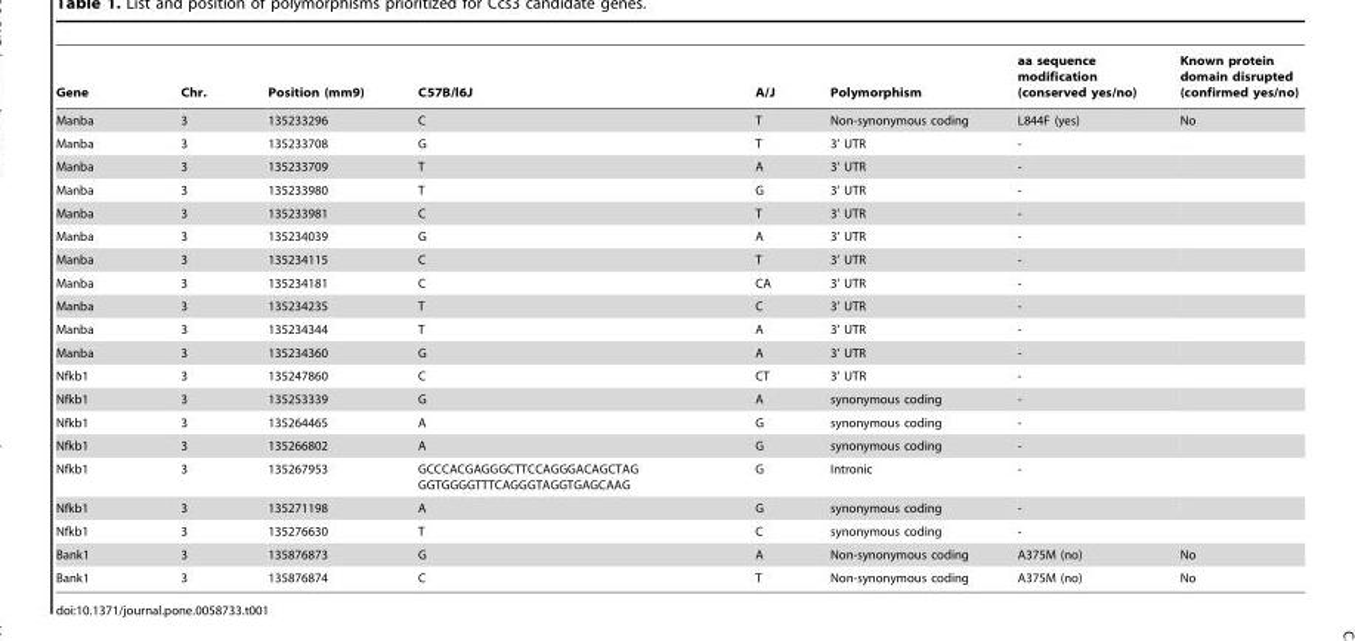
<table><thead><tr><td>Gene</td><td>Chr.</td><td>Position (mm9)</td><td>C57B/l6J</td><td>A/J</td><td>Polymorphism</td><td>aa sequence modification (conserved yes/no)</td><td>Known protein domain disrupted (confirmed yes/no)</td></tr></thead><tbody><tr><td>Manba</td><td>3</td><td>135233296</td><td>C</td><td>T</td><td>Non-synonymous coding</td><td>L844F (yes)</td><td>No</td></tr><tr><td>Manba</td><td>3</td><td>135233708</td><td>G</td><td>T</td><td>3’ UTR</td><td>-</td><td></td></tr><tr><td>Manba</td><td>3</td><td>135233709</td><td>T</td><td>A</td><td>3’ UTR</td><td>-</td><td></td></tr><tr><td>Manba</td><td>3</td><td>135233980</td><td>T</td><td>G</td><td>3’ UTR</td><td>-</td><td></td></tr><tr><td>Manba</td><td>3</td><td>135233981</td><td>C</td><td>T</td><td>3’ UTR</td><td>-</td><td></td></tr><tr><td>Manba</td><td>3</td><td>135234039</td><td>G</td><td>A</td><td>3’ UTR</td><td>-</td><td></td></tr><tr><td>Manba</td><td>3</td><td>135234115</td><td>C</td><td>T</td><td>3’ UTR</td><td>-</td><td></td></tr><tr><td>Manba</td><td>3</td><td>135234181</td><td>C</td><td>CA</td><td>3’ UTR</td><td>-</td><td></td></tr><tr><td>Manba</td><td>3</td><td>135234235</td><td>T</td><td>C</td><td>3’ UTR</td><td>-</td><td></td></tr><tr><td>Manba</td><td>3</td><td>135234344</td><td>T</td><td>A</td><td>3’ UTR</td><td>-</td><td></td></tr><tr><td>Manba</td><td>3</td><td>135234360</td><td>G</td><td>A</td><td>3’ UTR</td><td>-</td><td></td></tr><tr><td>Nfkb1</td><td>3</td><td>135247860</td><td>C</td><td>CT</td><td>3’ UTR</td><td>-</td><td></td></tr><tr><td>Nfkb1</td><td>3</td><td>135253339</td><td>G</td><td>A</td><td>synonymous coding</td><td>-</td><td></td></tr><tr><td>Nfkb1</td><td>3</td><td>135264465</td><td>A</td><td>G</td><td>synonymous coding</td><td>-</td><td></td></tr><tr><td>Nfkb1</td><td>3</td><td>135266802</td><td>A</td><td>G</td><td>synonymous coding</td><td>-</td><td></td></tr><tr><td>Nfkb1</td><td>3</td><td>135267953</td><td>GCCCACGAGGGCTTCCAGGGACAGCTAG GGTGGGGTTTCAGGGTAGGTGAGCAAG</td><td>G</td><td>Intronic</td><td>-</td><td></td></tr><tr><td>Nfkb1</td><td>3</td><td>135271198</td><td>A</td><td>G</td><td>synonymous coding</td><td>-</td><td></td></tr><tr><td>Nfkb1</td><td>3</td><td>135276630</td><td>T</td><td>C</td><td>synonymous coding</td><td>-</td><td></td></tr><tr><td>Bank1</td><td>3</td><td>135876873</td><td>G</td><td>A</td><td>Non-synonymous coding</td><td>A375M (no)</td><td>No</td></tr><tr><td>Bank1</td><td>3</td><td>135876874</td><td>C</td><td>T</td><td>Non-synonymous coding</td><td>A375M (no)</td><td>No</td></tr></tbody></table>